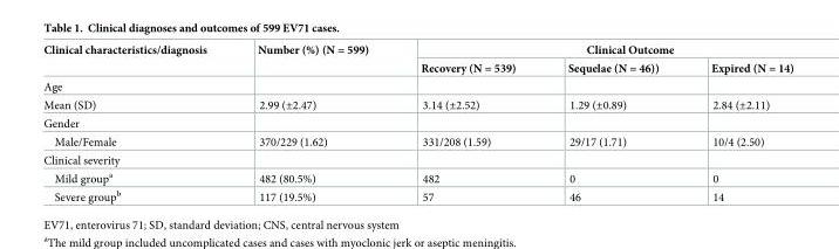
<table><thead><tr><td rowspan="2">Clinical characteristics/diagnosis</td><td rowspan="2">Number (%) (N = 599)</td><td colspan="3">Clinical Outcome</td></tr><tr><td>Recovery (N = 539)</td><td>Sequelae (N = 46))</td><td>Expired (N = 14)</td></tr></thead><tbody><tr><td colspan="5">Age</td></tr><tr><td>Mean (SD)</td><td>2.99 (±2.47)</td><td>3.14 (±2.52)</td><td>1.29 (±0.89)</td><td>2.84 (±2.11)</td></tr><tr><td colspan="5">Gender</td></tr><tr><td>Male/Female</td><td>370/229 (1.62)</td><td>331/208 (1.59)</td><td>29/17 (1.71)</td><td>10/4 (2.50)</td></tr><tr><td colspan="5">Clinical severity</td></tr><tr><td>Mild group<sup>a</sup></td><td>482 (80.5%)</td><td>482</td><td>0</td><td>0</td></tr><tr><td>Severe group<sup>b</sup></td><td>117 (19.5%)</td><td>57</td><td>46</td><td>14</td></tr></tbody></table>